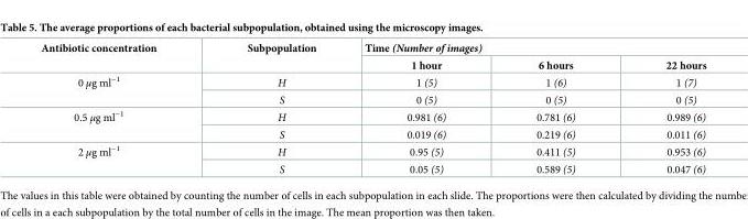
<table><thead><tr><td rowspan="2">Antibiotic concentration</td><td rowspan="2">Subpopulation</td><td colspan="3">Time (Number of images)</td></tr><tr><td>1 hour</td><td>6 hours</td><td>22 hours</td></tr></thead><tbody><tr><td rowspan="2">0 μg ml<sup>−1</sup></td><td>H</td><td>1 (5)</td><td>1 (6)</td><td>1 (7)</td></tr><tr><td>S</td><td>0 (5)</td><td>0 (5)</td><td>0 (5)</td></tr><tr><td rowspan="2">0.5 μg ml<sup>−1</sup></td><td>H</td><td>0.981 (6)</td><td>0.781 (6)</td><td>0.989 (6)</td></tr><tr><td>S</td><td>0.019 (6)</td><td>0.219 (6)</td><td>0.011 (6)</td></tr><tr><td rowspan="2">2 μg ml<sup>−1</sup></td><td>H</td><td>0.95 (5)</td><td>0.411 (5)</td><td>0.953 (6)</td></tr><tr><td>S</td><td>0.05 (5)</td><td>0.589 (5)</td><td>0.047 (6)</td></tr></tbody></table>